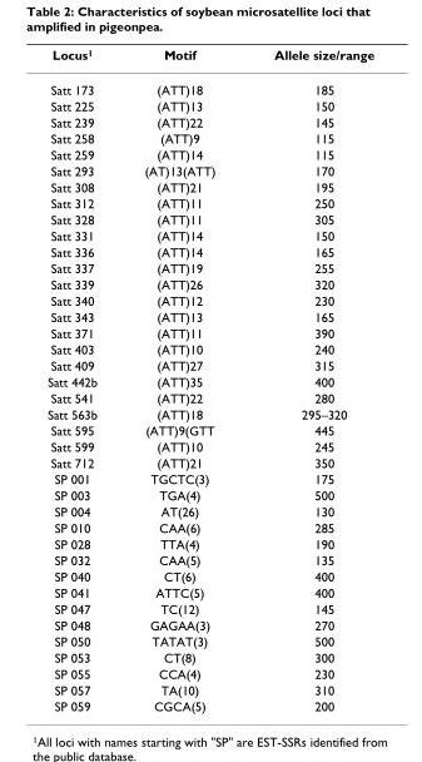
<table><thead><tr><td>Locus<sup>1</sup></td><td>Motif</td><td>Allele size/range</td></tr></thead><tbody><tr><td>Satt 173</td><td>(ATT)18</td><td>185</td></tr><tr><td>Satt 225</td><td>(ATT)13</td><td>150</td></tr><tr><td>Satt 239</td><td>(ATT)22</td><td>145</td></tr><tr><td>Satt 258</td><td>(ATT)9</td><td>115</td></tr><tr><td>Satt 259</td><td>(ATT)14</td><td>115</td></tr><tr><td>Satt 293</td><td>(AT)13(ATT)</td><td>170</td></tr><tr><td>Satt 308</td><td>(ATT)21</td><td>195</td></tr><tr><td>Satt 312</td><td>(ATT)11</td><td>250</td></tr><tr><td>Satt 328</td><td>(ATT)11</td><td>305</td></tr><tr><td>Satt 331</td><td>(ATT)14</td><td>150</td></tr><tr><td>Satt 336</td><td>(ATT)14</td><td>165</td></tr><tr><td>Satt 337</td><td>(ATT)19</td><td>255</td></tr><tr><td>Satt 339</td><td>(ATT)26</td><td>320</td></tr><tr><td>Satt 340</td><td>(ATT)12</td><td>230</td></tr><tr><td>Satt 343</td><td>(ATT)13</td><td>165</td></tr><tr><td>Satt 371</td><td>(ATT)11</td><td>390</td></tr><tr><td>Satt 403</td><td>(ATT)10</td><td>240</td></tr><tr><td>Satt 409</td><td>(ATT)27</td><td>315</td></tr><tr><td>Satt 442b</td><td>(ATT)35</td><td>400</td></tr><tr><td>Satt 541</td><td>(ATT)22</td><td>280</td></tr><tr><td>Satt 563b</td><td>(ATT)18</td><td>295–320</td></tr><tr><td>Satt 595</td><td>(ATT)9(GTT</td><td>445</td></tr><tr><td>Satt 599</td><td>(ATT)10</td><td>245</td></tr><tr><td>Satt 712</td><td>(ATT)21</td><td>350</td></tr><tr><td>SP 001</td><td>TGCTC(3)</td><td>175</td></tr><tr><td>SP 003</td><td>TGA(4)</td><td>500</td></tr><tr><td>SP 004</td><td>AT(26)</td><td>130</td></tr><tr><td>SP 010</td><td>CAA(6)</td><td>285</td></tr><tr><td>SP 028</td><td>TTA(4)</td><td>190</td></tr><tr><td>SP 032</td><td>CAA(5)</td><td>135</td></tr><tr><td>SP 040</td><td>CT(6)</td><td>400</td></tr><tr><td>SP 041</td><td>ATTC(5)</td><td>400</td></tr><tr><td>SP 047</td><td>TC(12)</td><td>145</td></tr><tr><td>SP 048</td><td>GAGAA(3)</td><td>270</td></tr><tr><td>SP 050</td><td>TATAT(3)</td><td>500</td></tr><tr><td>SP 053</td><td>CT(8)</td><td>300</td></tr><tr><td>SP 055</td><td>CCA(4)</td><td>230</td></tr><tr><td>SP 057</td><td>TA(10)</td><td>310</td></tr><tr><td>SP 059</td><td>CGCA(5)</td><td>200</td></tr></tbody></table>